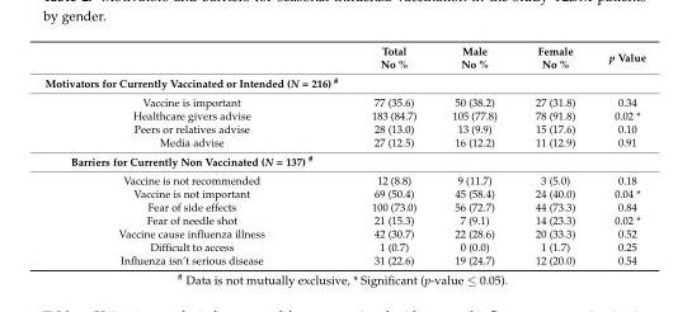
<table><thead><tr><td></td><td>Total No %</td><td>Male No %</td><td>Female No %</td><td>p Value</td></tr></thead><tbody><tr><td colspan="5">Motivators for Currently Vaccinated or Intended (N = 216) <sup>#</sup></td></tr><tr><td>Vaccine is important</td><td>77 (35.6)</td><td>50 (38.2)</td><td>27 (31.8)</td><td>0.34</td></tr><tr><td>Healthcare givers advise</td><td>183 (84.7)</td><td>105 (77.8)</td><td>78 (91.8)</td><td>0.02 *</td></tr><tr><td>Peers or relatives advise</td><td>28 (13.0)</td><td>13 (9.9)</td><td>15 (17.6)</td><td>0.10</td></tr><tr><td>Media advise</td><td>27 (12.5)</td><td>16 (12.2)</td><td>11 (12.9)</td><td>0.91</td></tr><tr><td colspan="5">Barriers for Currently Non Vaccinated (N = 137) <sup>#</sup></td></tr><tr><td>Vaccine is not recommended</td><td>12 (8.8)</td><td>9 (11.7)</td><td>3 (5.0)</td><td>0.18</td></tr><tr><td>Vaccine is not important</td><td>69 (50.4)</td><td>45 (58.4)</td><td>24 (40.0)</td><td>0.04 *</td></tr><tr><td>Fear of side effects</td><td>100 (73.0)</td><td>56 (72.7)</td><td>44 (73.3)</td><td>0.84</td></tr><tr><td>Fear of needle shot</td><td>21 (15.3)</td><td>7 (9.1)</td><td>14 (23.3)</td><td>0.02 *</td></tr><tr><td>Vaccine cause influenza illness</td><td>42 (30.7)</td><td>22 (28.6)</td><td>20 (33.3)</td><td>0.52</td></tr><tr><td>Difficult to access</td><td>1 (0.7)</td><td>0 (0.0)</td><td>1 (1.7)</td><td>0.25</td></tr><tr><td>Influenza isn’t serious disease</td><td>31 (22.6)</td><td>19 (24.7)</td><td>12 (20.0)</td><td>0.54</td></tr></tbody></table>